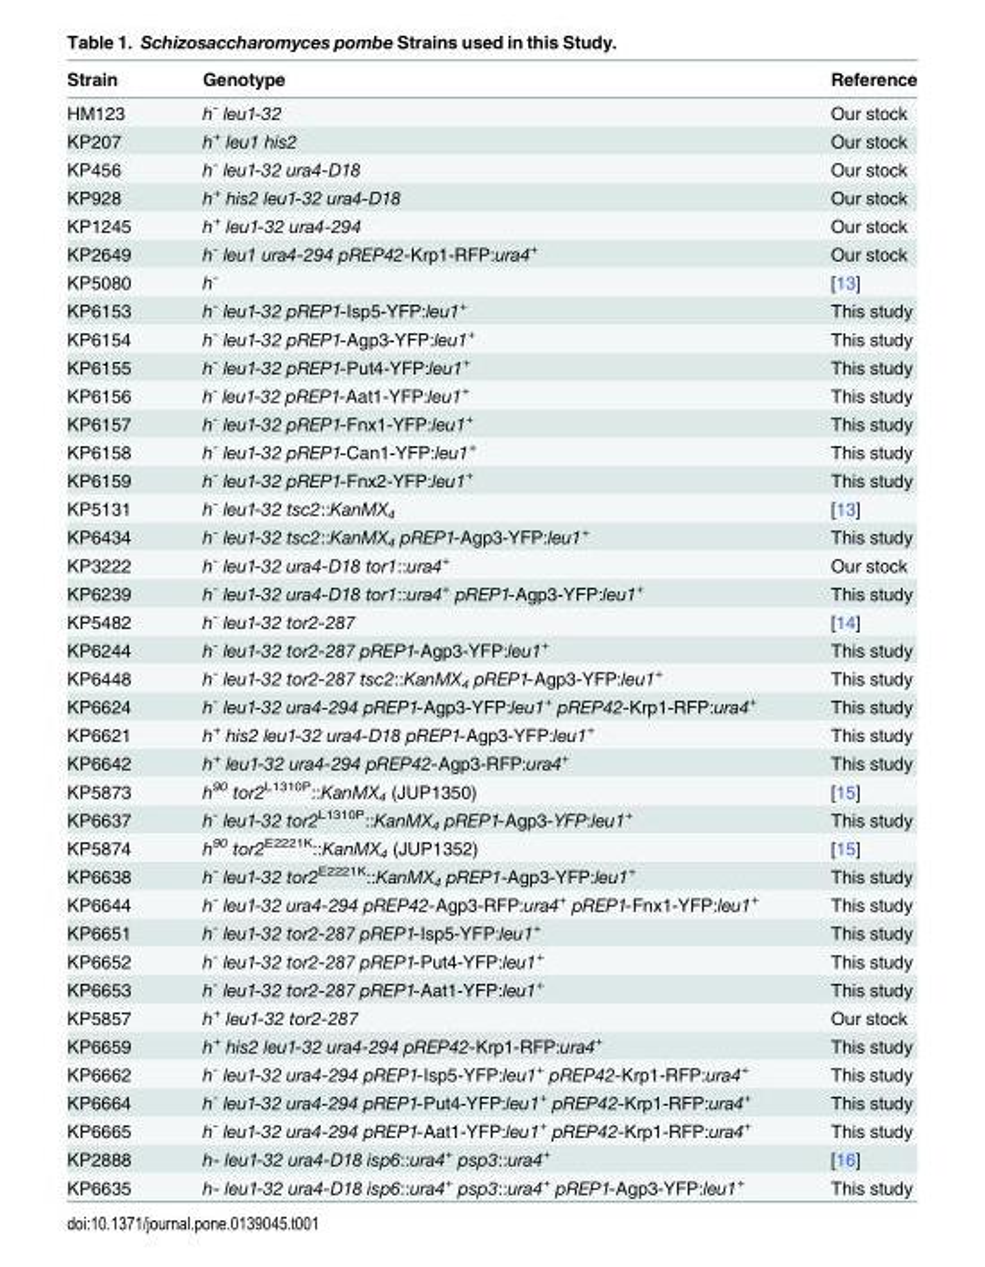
<table><thead><tr><td>Strain</td><td>Genotype</td><td>Reference</td></tr></thead><tbody><tr><td>HM123</td><td>h<sup>-</sup> leu1-32</td><td>Our stock</td></tr><tr><td>KP207</td><td>h<sup>+</sup> leu1 his2</td><td>Our stock</td></tr><tr><td>KP456</td><td>h<sup>-</sup> leu1-32 ura4-D18</td><td>Our stock</td></tr><tr><td>KP928</td><td>h<sup>+</sup> his2 leu1-32 ura4-D18</td><td>Our stock</td></tr><tr><td>KP1245</td><td>h<sup>+</sup> leu1-32 ura4-294</td><td>Our stock</td></tr><tr><td>KP2649</td><td>h<sup>-</sup> leu1 ura4-294 pREP42-Krp1-RFP:ura4<sup>+</sup></td><td>Our stock</td></tr><tr><td>KP5080</td><td>h<sup>-</sup></td><td>[13]</td></tr><tr><td>KP6153</td><td>h<sup>-</sup> leu1-32 pREP1-Isp5-YFP:leu1<sup>+</sup></td><td>This study</td></tr><tr><td>KP6154</td><td>h<sup>-</sup> leu1-32 pREP1-Agp3-YFP:leu1<sup>+</sup></td><td>This study</td></tr><tr><td>KP6155</td><td>h<sup>-</sup> leu1-32 pREP1-Put4-YFP:leu1<sup>+</sup></td><td>This study</td></tr><tr><td>KP6156</td><td>h<sup>-</sup> leu1-32 pREP1-Aat1-YFP:leu1<sup>+</sup></td><td>This study</td></tr><tr><td>KP6157</td><td>h<sup>-</sup> leu1-32 pREP1-Fnx1-YFP:leu1<sup>+</sup></td><td>This study</td></tr><tr><td>KP6158</td><td>h<sup>-</sup> leu1-32 pREP1-Can1-YFP:leu1<sup>+</sup></td><td>This study</td></tr><tr><td>KP6159</td><td>h<sup>-</sup> leu1-32 pREP1-Fnx2-YFP:leu1<sup>+</sup></td><td>This study</td></tr><tr><td>KP5131</td><td>h<sup>-</sup> leu1-32 tsc2::KanMX<sub>4</sub></td><td>[13]</td></tr><tr><td>KP6434</td><td>h<sup>-</sup> leu1-32 tsc2::KanMX<sub>4</sub> pREP1-Agp3-YFP:leu1<sup>+</sup></td><td>This study</td></tr><tr><td>KP3222</td><td>h<sup>-</sup> leu1-32 ura4-D18 tor1::ura4<sup>+</sup></td><td>Our stock</td></tr><tr><td>KP6239</td><td>h<sup>-</sup> leu1-32 ura4-D18 tor1::ura4<sup>+</sup> pREP1-Agp3-YFP:leu1<sup>+</sup></td><td>This study</td></tr><tr><td>KP5482</td><td>h<sup>-</sup> leu1-32 tor2-287</td><td>[14]</td></tr><tr><td>KP6244</td><td>h<sup>-</sup> leu1-32 tor2-287 pREP1-Agp3-YFP:leu1<sup>+</sup></td><td>This study</td></tr><tr><td>KP6448</td><td>h<sup>-</sup> leu1-32 tor2-287 tsc2::KanMX<sub>4</sub> pREP1-Agp3-YFP:leu1<sup>+</sup></td><td>This study</td></tr><tr><td>KP6624</td><td>h<sup>-</sup> leu1-32 ura4-294 pREP1-Agp3-YFP:leu1<sup>+</sup> pREP42-Krp1-RFP:ura4<sup>+</sup></td><td>This study</td></tr><tr><td>KP6621</td><td>h<sup>+</sup> his2 leu1-32 ura4-D18 pREP1-Agp3-YFP:leu1<sup>+</sup></td><td>This study</td></tr><tr><td>KP6642</td><td>h<sup>+</sup> leu1-32 ura4-294 pREP42-Agp3-RFP:ura4<sup>+</sup></td><td>This study</td></tr><tr><td>KP5873</td><td>h<sup>90</sup> tor2<sup>L1310P</sup>::KanMX<sub>4</sub> (JUP1350)</td><td>[15]</td></tr><tr><td>KP6637</td><td>h<sup>-</sup> leu1-32 tor2<sup>L1310P</sup>::KanMX<sub>4</sub> pREP1-Agp3-YFP:leu1<sup>+</sup></td><td>This study</td></tr><tr><td>KP5874</td><td>h<sup>90</sup> tor2<sup>E2221K</sup>::KanMX<sub>4</sub> (JUP1352)</td><td>[15]</td></tr><tr><td>KP6638</td><td>h<sup>-</sup> leu1-32 tor2<sup>E2221K</sup>::KanMX<sub>4</sub> pREP1-Agp3-YFP:leu1<sup>+</sup></td><td>This study</td></tr><tr><td>KP6644</td><td>h<sup>-</sup> leu1-32 ura4-294 pREP42-Agp3-RFP:ura4<sup>+</sup> pREP1-Fnx1-YFP:leu1<sup>+</sup></td><td>This study</td></tr><tr><td>KP6651</td><td>h<sup>-</sup> leu1-32 tor2-287 pREP1-Isp5-YFP:leu1<sup>+</sup></td><td>This study</td></tr><tr><td>KP6652</td><td>h<sup>-</sup> leu1-32 tor2-287 pREP1-Put4-YFP:leu1<sup>+</sup></td><td>This study</td></tr><tr><td>KP6653</td><td>h<sup>-</sup> leu1-32 tor2-287 pREP1-Aat1-YFP:leu1<sup>+</sup></td><td>This study</td></tr><tr><td>KP5857</td><td>h<sup>+</sup> leu1-32 tor2-287</td><td>Our stock</td></tr><tr><td>KP6659</td><td>h<sup>+</sup> his2 leu1-32 ura4-294 pREP42-Krp1-RFP:ura4<sup>+</sup></td><td>This study</td></tr><tr><td>KP6662</td><td>h<sup>-</sup> leu1-32 ura4-294 pREP1-Isp5-YFP:leu1<sup>+</sup> pREP42-Krp1-RFP:ura4<sup>+</sup></td><td>This study</td></tr><tr><td>KP6664</td><td>h<sup>-</sup> leu1-32 ura4-294 pREP1-Put4-YFP:leu1<sup>+</sup> pREP42-Krp1-RFP:ura4<sup>+</sup></td><td>This study</td></tr><tr><td>KP6665</td><td>h<sup>-</sup> leu1-32 ura4-294 pREP1-Aat1-YFP:leu1<sup>+</sup> pREP42-Krp1-RFP:ura4<sup>+</sup></td><td>This study</td></tr><tr><td>KP2888</td><td>h- leu1-32 ura4-D18 isp6::ura4<sup>+</sup> psp3::ura4<sup>+</sup></td><td>[16]</td></tr><tr><td>KP6635</td><td>h- leu1-32 ura4-D18 isp6::ura4<sup>+</sup> psp3::ura4<sup>+</sup> pREP1-Agp3-YFP:leu1<sup>+</sup></td><td>This study</td></tr></tbody></table>